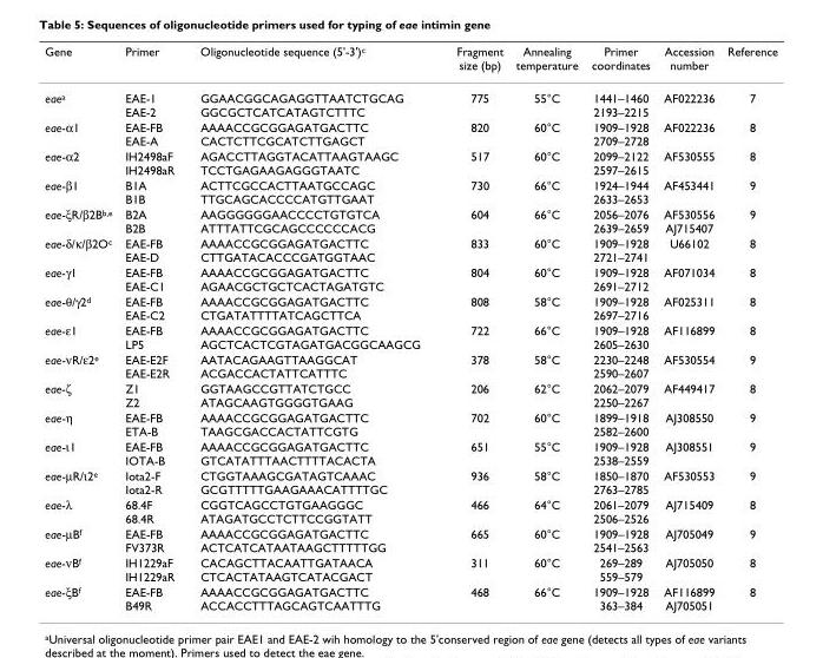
<table><thead><tr><td>Gene</td><td>Primer</td><td>Oligonucleotide sequence (5&#x27;-3&#x27;)c</td><td>Fragment size (bp)</td><td>Annealing temperature</td><td>Primer coordinates</td><td>Accession number</td><td>Reference</td></tr></thead><tbody><tr><td>eaea</td><td>EAE-1 EAE-2</td><td>GGAACGGCAGAGGTTAATCTGCAG GGCGCTCATCATAGTCTTTC</td><td>775</td><td>55°C</td><td>1441–1460 2193–2215</td><td>AF022236</td><td>7</td></tr><tr><td>eae-α1</td><td>EAE-FB EAE-A</td><td>AAAACCGCGGAGATGACTTC CACTCTTCGCATCTTGAGCT</td><td>820</td><td>60°C</td><td>1909–1928 2709–2728</td><td>AF022236</td><td>8</td></tr><tr><td>eae-α2</td><td>IH2498aF IH2498aR</td><td>AGACCTTAGGTACATTAAGTAAGC TCCTGAGAAGAGGGTAATC</td><td>517</td><td>60°C</td><td>2099–2122 2597–2615</td><td>AF530555</td><td>8</td></tr><tr><td>eae-β1</td><td>B1A B1B</td><td>ACTTCGCCACTTAATGCCAGC TTGCAGCACCCCATGTTGAAT</td><td>730</td><td>66°C</td><td>1924–1944 2633–2653</td><td>AF453441</td><td>9</td></tr><tr><td>eae-ξR/β2Bb,e</td><td>B2A B2B</td><td>AAGGGGGGAACCCCTGTGTCA ATTTATTCGCAGCCCCCCACG</td><td>604</td><td>66°C</td><td>2056–2076 2639–2659</td><td>AF530556 AJ715407</td><td>9</td></tr><tr><td>eae-δ/κ/β2Oc</td><td>EAE-FB EAE-D</td><td>AAAACCGCGGAGATGACTTC CTTGATACACCCGATGGTAAC</td><td>833</td><td>60°C</td><td>1909–1928 2721–2741</td><td>U66102</td><td>8</td></tr><tr><td>eae-γ1</td><td>EAE-FB EAE-C1</td><td>AAAACCGCGGAGATGACTTC AGAACGCTGCTCACTAGATGTC</td><td>804</td><td>60°C</td><td>1909–1928 2691–2712</td><td>AF071034</td><td>8</td></tr><tr><td>eae-θ/γ2d</td><td>EAE-FB EAE-C2</td><td>AAAACCGCGGAGATGACTTC CTGATATTTTATCAGCTTCA</td><td>808</td><td>58°C</td><td>1909–1928 2697–2716</td><td>AF025311</td><td>8</td></tr><tr><td>eae-ε1</td><td>EAE-FB LP5</td><td>AAAACCGCGGAGATGACTTC AGCTCACTCGTAGATGACGGCAAGCG</td><td>722</td><td>66°C</td><td>1909–1928 2605–2630</td><td>AF116899</td><td>8</td></tr><tr><td>eae-νR/ε2e</td><td>EAE-E2F EAE-E2R</td><td>AATACAGAAGTTAAGGCAT ACGACCACTATTCATTTC</td><td>378</td><td>58°C</td><td>2230–2248 2590–2607</td><td>AF530554</td><td>9</td></tr><tr><td>eae-ζ</td><td>Z1 Z2</td><td>GGTAAGCCGTTATCTGCC ATAGCAAGTGGGGTGAAG</td><td>206</td><td>62°C</td><td>2062–2079 2250–2267</td><td>AF449417</td><td>8</td></tr><tr><td>eae-η</td><td>EAE-FB ETA-B</td><td>AAAACCGCGGAGATGACTTC TAAGCGACCACTATTCGTG</td><td>702</td><td>60°C</td><td>1899–1918 2582–2600</td><td>AJ308550</td><td>9</td></tr><tr><td>eae-ι1</td><td>EAE-FB IOTA-B</td><td>AAAACCGCGGAGATGACTTC GTCATATTTAACTTTTACACTA</td><td>651</td><td>55°C</td><td>1909–1928 2538–2559</td><td>AJ308551</td><td>9</td></tr><tr><td>eae-µR/ι2e</td><td>Iota2-F Iota2-R</td><td>CTGGTAAAGCGATAGTCAAAC GCGTTTTTGAAGAAACATTTTGC</td><td>936</td><td>58°C</td><td>1850–1870 2763–2785</td><td>AF530553</td><td>9</td></tr><tr><td>eae-λ</td><td>68.4F 68.4R</td><td>CGGTCAGCCTGTGAAGGGC ATAGATGCCTCTTCCGGTATT</td><td>466</td><td>64°C</td><td>2061–2079 2506–2526</td><td>AJ715409</td><td>8</td></tr><tr><td>eae-µBf</td><td>EAE-FB FV373R</td><td>AAAACCGCGGAGATGACTTC ACTCATCATAATAAGCTTTTTGG</td><td>665</td><td>60°C</td><td>1909–1928 2541–2563</td><td>AJ705049</td><td>9</td></tr><tr><td>eae-νBf</td><td>IH1229aF IH1229aR</td><td>CACAGCTTACAATTGATAACA CTCACTATAAGTCATACGACT</td><td>311</td><td>60°C</td><td>269–289 559–579</td><td>AJ705050</td><td>8</td></tr><tr><td>eae-ξBf</td><td>EAE-FB B49R</td><td>AAAACCGCGGAGATGACTTC ACCACCTTTAGCAGTCAATTTG</td><td>468</td><td>66°C</td><td>1909–1928 363–384</td><td>AF116899 AJ705051</td><td>8</td></tr></tbody></table>